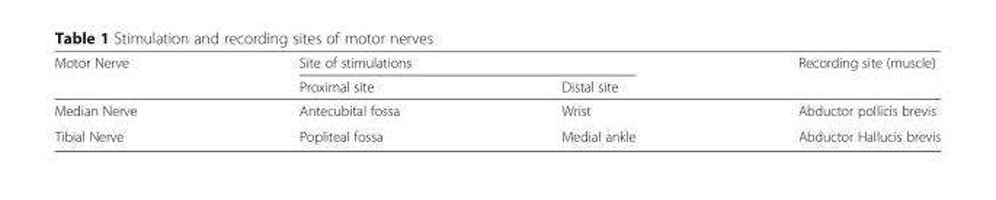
<table><thead><tr><td rowspan="2">Motor Nerve</td><td colspan="2">Site of stimulations</td><td rowspan="2">Recording site (muscle)</td></tr><tr><td>Proximal site</td><td>Distal site</td></tr></thead><tbody><tr><td>Median Nerve</td><td>Antecubital fossa</td><td>Wrist</td><td>Abductor pollicis brevis</td></tr><tr><td>Tibial Nerve</td><td>Popliteal fossa</td><td>Medial ankle</td><td>Abductor Hallucis brevis</td></tr></tbody></table>